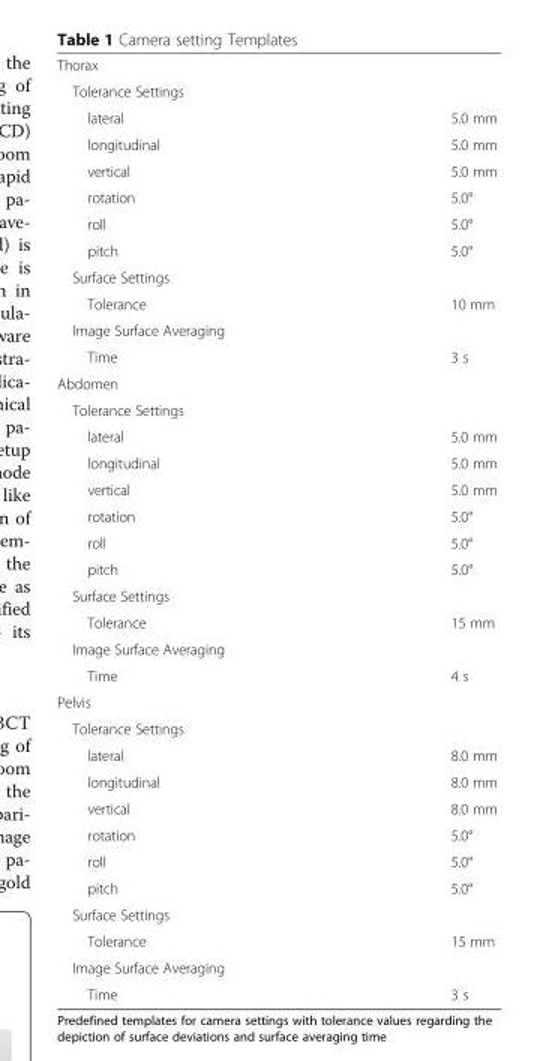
<table><tbody><tr><td colspan="2">Thorax</td></tr><tr><td colspan="2">Tolerance Settings</td></tr><tr><td>lateral</td><td>5.0 mm</td></tr><tr><td>longitudinal</td><td>5.0 mm</td></tr><tr><td>vertical</td><td>5.0 mm</td></tr><tr><td>rotation</td><td>5.0°</td></tr><tr><td>roll</td><td>5.0°</td></tr><tr><td>pitch</td><td>5.0°</td></tr><tr><td colspan="2">Surface Settings</td></tr><tr><td>Tolerance</td><td>10 mm</td></tr><tr><td colspan="2">Image Surface Averaging</td></tr><tr><td>Time</td><td>3 s</td></tr><tr><td colspan="2">Abdomen</td></tr><tr><td colspan="2">Tolerance Settings</td></tr><tr><td>lateral</td><td>5.0 mm</td></tr><tr><td>longitudinal</td><td>5.0 mm</td></tr><tr><td>vertical</td><td>5.0 mm</td></tr><tr><td>rotation</td><td>5.0°</td></tr><tr><td>roll</td><td>5.0°</td></tr><tr><td>pitch</td><td>5.0°</td></tr><tr><td colspan="2">Surface Settings</td></tr><tr><td>Tolerance</td><td>15 mm</td></tr><tr><td colspan="2">Image Surface Averaging</td></tr><tr><td>Time</td><td>4 s</td></tr><tr><td colspan="2">Pelvis</td></tr><tr><td colspan="2">Tolerance Settings</td></tr><tr><td>lateral</td><td>8.0 mm</td></tr><tr><td>longitudinal</td><td>8.0 mm</td></tr><tr><td>vertical</td><td>8.0 mm</td></tr><tr><td>rotation</td><td>5.0°</td></tr><tr><td>roll</td><td>5.0°</td></tr><tr><td>pitch</td><td>5.0°</td></tr><tr><td colspan="2">Surface Settings</td></tr><tr><td>Tolerance</td><td>15 mm</td></tr><tr><td colspan="2">Image Surface Averaging</td></tr><tr><td>Time</td><td>3 s</td></tr></tbody></table>